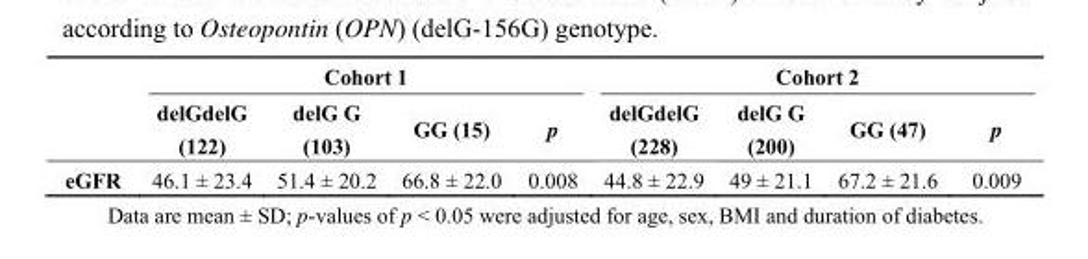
<table><thead><tr><td rowspan="2"></td><td colspan="4">Cohort 1</td><td colspan="4">Cohort 2</td></tr><tr><td>delGdelG (122)</td><td>delG G (103)</td><td>GG (15)</td><td>p</td><td>delGdelG (228)</td><td>delG G (200)</td><td>GG (47)</td><td>p</td></tr></thead><tbody><tr><td>eGFR</td><td>46.1 ± 23.4</td><td>51.4 ± 20.2</td><td>66.8 ± 22.0</td><td>0.008</td><td>44.8 ± 22.9</td><td>49 ± 21.1</td><td>67.2 ± 21.6</td><td>0.009</td></tr></tbody></table>